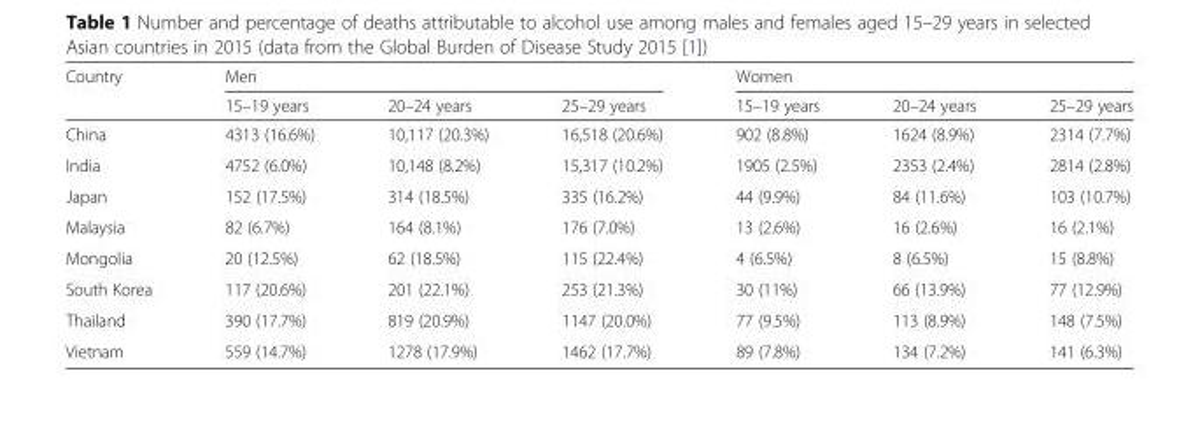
<table><thead><tr><td rowspan="2">Country</td><td colspan="3">Men</td><td colspan="3">Women</td></tr><tr><td>15–19 years</td><td>20–24 years</td><td>25–29 years</td><td>15–19 years</td><td>20–24 years</td><td>25–29 years</td></tr></thead><tbody><tr><td>China</td><td>4313 (16.6%)</td><td>10,117 (20.3%)</td><td>16,518 (20.6%)</td><td>902 (8.8%)</td><td>1624 (8.9%)</td><td>2314 (7.7%)</td></tr><tr><td>India</td><td>4752 (6.0%)</td><td>10,148 (8.2%)</td><td>15,317 (10.2%)</td><td>1905 (2.5%)</td><td>2353 (2.4%)</td><td>2814 (2.8%)</td></tr><tr><td>Japan</td><td>152 (17.5%)</td><td>314 (18.5%)</td><td>335 (16.2%)</td><td>44 (9.9%)</td><td>84 (11.6%)</td><td>103 (10.7%)</td></tr><tr><td>Malaysia</td><td>82 (6.7%)</td><td>164 (8.1%)</td><td>176 (7.0%)</td><td>13 (2.6%)</td><td>16 (2.6%)</td><td>16 (2.1%)</td></tr><tr><td>Mongolia</td><td>20 (12.5%)</td><td>62 (18.5%)</td><td>115 (22.4%)</td><td>4 (6.5%)</td><td>8 (6.5%)</td><td>15 (8.8%)</td></tr><tr><td>South Korea</td><td>117 (20.6%)</td><td>201 (22.1%)</td><td>253 (21.3%)</td><td>30 (11%)</td><td>66 (13.9%)</td><td>77 (12.9%)</td></tr><tr><td>Thailand</td><td>390 (17.7%)</td><td>819 (20.9%)</td><td>1147 (20.0%)</td><td>77 (9.5%)</td><td>113 (8.9%)</td><td>148 (7.5%)</td></tr><tr><td>Vietnam</td><td>559 (14.7%)</td><td>1278 (17.9%)</td><td>1462 (17.7%)</td><td>89 (7.8%)</td><td>134 (7.2%)</td><td>141 (6.3%)</td></tr></tbody></table>